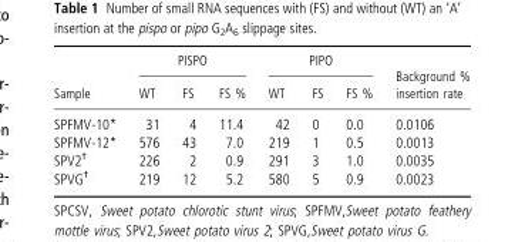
<table><thead><tr><td rowspan="2">Sample</td><td colspan="3">PISPO</td><td colspan="3">PIPO</td><td rowspan="2">Background % insertion rate</td></tr><tr><td>WT</td><td>FS</td><td>FS %</td><td>WT</td><td>FS</td><td>FS %</td></tr></thead><tbody><tr><td>SPFMV-10*</td><td>31</td><td>4</td><td>11.4</td><td>42</td><td>0</td><td>0.0</td><td>0.0106</td></tr><tr><td>SPFMV-12*</td><td>576</td><td>43</td><td>7.0</td><td>219</td><td>1</td><td>0.5</td><td>0.0013</td></tr><tr><td>SPV2<sup>†</sup></td><td>226</td><td>2</td><td>0.9</td><td>291</td><td>3</td><td>1.0</td><td>0.0035</td></tr><tr><td>SPVG<sup>†</sup></td><td>219</td><td>12</td><td>5.2</td><td>580</td><td>5</td><td>0.9</td><td>0.0023</td></tr></tbody></table>